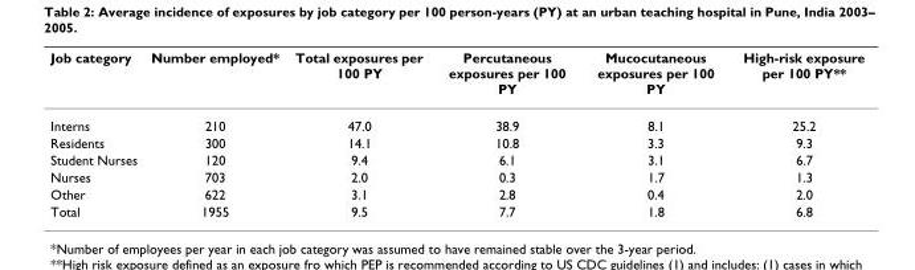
<table><thead><tr><td>Job category</td><td>Number employed*</td><td>Total exposures per 100 PY</td><td>Percutaneous exposures per 100 PY</td><td>Mucocutaneous exposures per 100 PY</td><td>High-risk exposure per 100 PY**</td></tr></thead><tbody><tr><td>Interns</td><td>210</td><td>47.0</td><td>38.9</td><td>8.1</td><td>25.2</td></tr><tr><td>Residents</td><td>300</td><td>14.1</td><td>10.8</td><td>3.3</td><td>9.3</td></tr><tr><td>Student Nurses</td><td>120</td><td>9.4</td><td>6.1</td><td>3.1</td><td>6.7</td></tr><tr><td>Nurses</td><td>703</td><td>2.0</td><td>0.3</td><td>1.7</td><td>1.3</td></tr><tr><td>Other</td><td>622</td><td>3.1</td><td>2.8</td><td>0.4</td><td>2.0</td></tr><tr><td>Total</td><td>1955</td><td>9.5</td><td>7.7</td><td>1.8</td><td>6.8</td></tr></tbody></table>